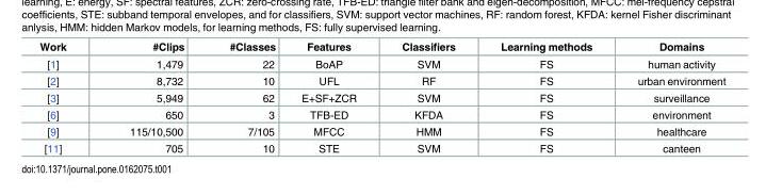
<table><thead><tr><td>Work</td><td>#Clips</td><td>#Classes</td><td>Features</td><td>Classifiers</td><td>Learning methods</td><td>Domains</td></tr></thead><tbody><tr><td>[1]</td><td>1,479</td><td>22</td><td>BoAP</td><td>SVM</td><td>FS</td><td>human activity</td></tr><tr><td>[2]</td><td>8,732</td><td>10</td><td>UFL</td><td>RF</td><td>FS</td><td>urban environment</td></tr><tr><td>[3]</td><td>5,949</td><td>62</td><td>E+SF+ZCR</td><td>SVM</td><td>FS</td><td>surveillance</td></tr><tr><td>[6]</td><td>650</td><td>3</td><td>TFB-ED</td><td>KFDA</td><td>FS</td><td>environment</td></tr><tr><td>[9]</td><td>115/10,500</td><td>7/105</td><td>MFCC</td><td>HMM</td><td>FS</td><td>healthcare</td></tr><tr><td>[11]</td><td>705</td><td>10</td><td>STE</td><td>SVM</td><td>FS</td><td>canteen</td></tr></tbody></table>